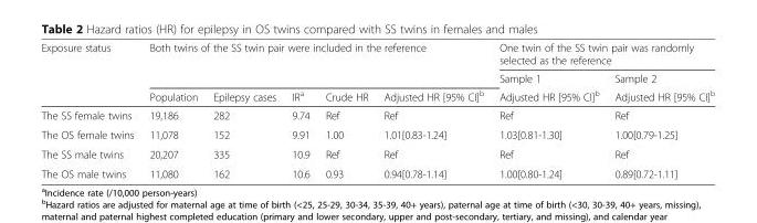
<table><thead><tr><td rowspan="3">Exposure status</td><td rowspan="2" colspan="5">Both twins of the SS twin pair were included in the reference</td><td colspan="2">One twin of the SS twin pair was randomly selected as the reference</td></tr><tr><td rowspan="2">Sample 1 Adjusted HR [95% CI]<sup>b</sup></td><td rowspan="2">Sample 2 Adjusted HR [95% CI]<sup>b</sup></td></tr><tr><td>Population</td><td>Epilepsy cases</td><td>IR<sup>a</sup></td><td>Crude HR</td><td>Adjusted HR [95% CI]<sup>b</sup></td></tr></thead><tbody><tr><td>The SS female twins</td><td>19,186</td><td>282</td><td>9.74</td><td>Ref</td><td>Ref</td><td>Ref</td><td>Ref</td></tr><tr><td>The OS female twins</td><td>11,078</td><td>152</td><td>9.91</td><td>1.00</td><td>1.01[0.83-1.24]</td><td>1.03[0.81-1.30]</td><td>1.00[0.79-1.25]</td></tr><tr><td>The SS male twins</td><td>20,207</td><td>335</td><td>10.9</td><td>Ref</td><td>Ref</td><td>Ref</td><td>Ref</td></tr><tr><td>The OS male twins</td><td>11,080</td><td>162</td><td>10.6</td><td>0.93</td><td>0.94[0.78-1.14]</td><td>1.00[0.80-1.24]</td><td>0.89[0.72-1.11]</td></tr></tbody></table>